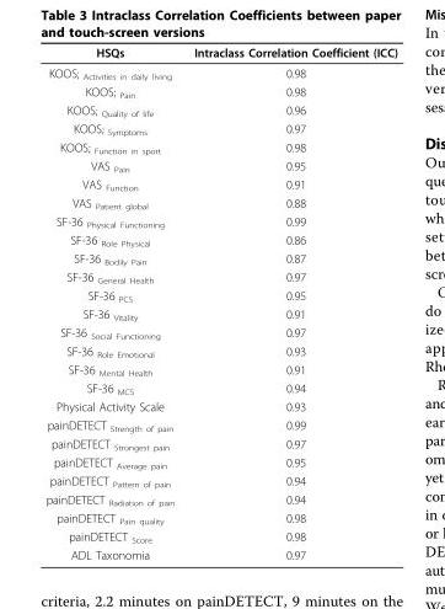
<table><thead><tr><td>HSQs</td><td>Intraclass Correlation Coefficient (ICC)</td></tr></thead><tbody><tr><td>KOOS; <sub>Activities in daily living</sub></td><td>0.98</td></tr><tr><td>KOOS; <sub>Pain</sub></td><td>0.98</td></tr><tr><td>KOOS; <sub>Quality of life</sub></td><td>0.96</td></tr><tr><td>KOOS; <sub>Symptoms</sub></td><td>0.97</td></tr><tr><td>KOOS; <sub>Function in sport</sub></td><td>0.98</td></tr><tr><td>VAS <sub>Pain</sub></td><td>0.95</td></tr><tr><td>VAS <sub>Function</sub></td><td>0.91</td></tr><tr><td>VAS <sub>Patient global</sub></td><td>0.88</td></tr><tr><td>SF-36 <sub>Physical Functioning</sub></td><td>0.99</td></tr><tr><td>SF-36 <sub>Role Physical</sub></td><td>0.86</td></tr><tr><td>SF-36 <sub>Bodily Pain</sub></td><td>0.87</td></tr><tr><td>SF-36 <sub>General Health</sub></td><td>0.97</td></tr><tr><td>SF-36 <sub>PCS</sub></td><td>0.95</td></tr><tr><td>SF-36 <sub>Vitality</sub></td><td>0.91</td></tr><tr><td>SF-36 <sub>Social Functioning</sub></td><td>0.97</td></tr><tr><td>SF-36 <sub>Role Emotional</sub></td><td>0.93</td></tr><tr><td>SF-36 <sub>Mental Health</sub></td><td>0.91</td></tr><tr><td>SF-36 <sub>MCS</sub></td><td>0.94</td></tr><tr><td>Physical Activity Scale</td><td>0.93</td></tr><tr><td>painDETECT <sub>Strength of pain</sub></td><td>0.99</td></tr><tr><td>painDETECT <sub>Strongest pain</sub></td><td>0.97</td></tr><tr><td>painDETECT <sub>Average pain</sub></td><td>0.95</td></tr><tr><td>painDETECT <sub>Pattern of pain</sub></td><td>0.94</td></tr><tr><td>painDETECT <sub>Radiation of pain</sub></td><td>0.94</td></tr><tr><td>painDETECT <sub>Pain quality</sub></td><td>0.98</td></tr><tr><td>painDETECT <sub>Score</sub></td><td>0.98</td></tr><tr><td>ADL Taxonomia</td><td>0.97</td></tr></tbody></table>